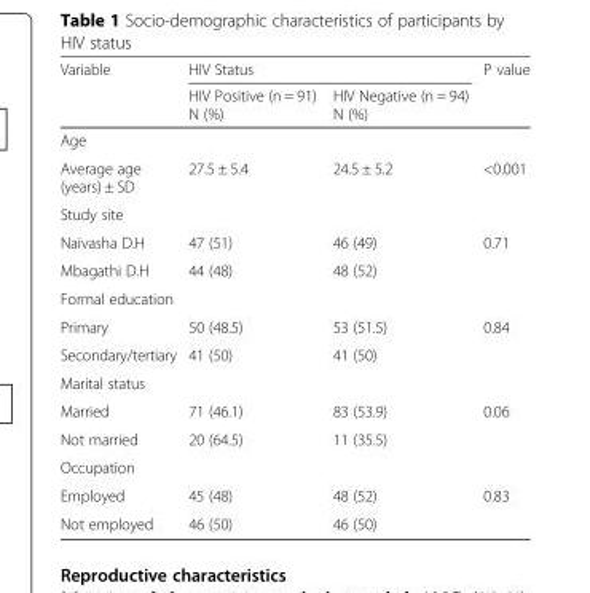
<table><thead><tr><td rowspan="2">Variable</td><td colspan="2">HIV Status</td><td rowspan="2">P value</td></tr><tr><td>HIV Positive (n = 91) N (%)</td><td>HIV Negative (n = 94) N (%)</td></tr></thead><tbody><tr><td colspan="4">Age</td></tr><tr><td>Average age (years) ± SD</td><td>27.5 ± 5.4</td><td>24.5 ± 5.2</td><td>&lt;0.001</td></tr><tr><td colspan="4">Study site</td></tr><tr><td>Naivasha D.H</td><td>47 (51)</td><td>46 (49)</td><td>0.71</td></tr><tr><td>Mbagathi D.H</td><td>44 (48)</td><td>48 (52)</td><td></td></tr><tr><td colspan="4">Formal education</td></tr><tr><td>Primary</td><td>50 (48.5)</td><td>53 (51.5)</td><td>0.84</td></tr><tr><td>Secondary/tertiary</td><td>41 (50)</td><td>41 (50)</td><td></td></tr><tr><td colspan="4">Marital status</td></tr><tr><td>Married</td><td>71 (46.1)</td><td>83 (53.9)</td><td>0.06</td></tr><tr><td>Not married</td><td>20 (64.5)</td><td>11 (35.5)</td><td></td></tr><tr><td colspan="4">Occupation</td></tr><tr><td>Employed</td><td>45 (48)</td><td>48 (52)</td><td>0.83</td></tr><tr><td>Not employed</td><td>46 (50)</td><td>46 (50)</td><td></td></tr></tbody></table>